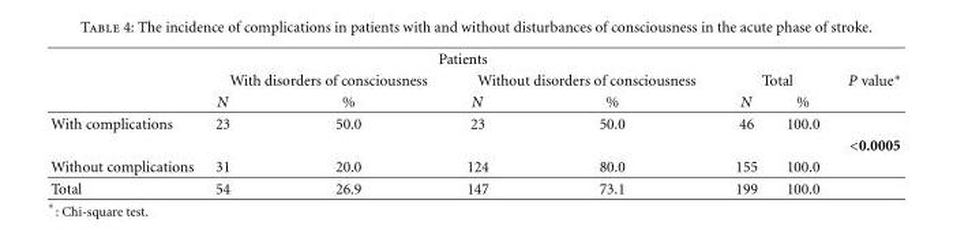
<table><thead><tr><td rowspan="3"></td><td colspan="4">Patients</td><td></td><td></td><td rowspan="3">P value∗</td></tr><tr><td colspan="2">With disorders of consciousness</td><td colspan="2">Without disorders of consciousness</td><td colspan="2">Total</td></tr><tr><td>N</td><td>%</td><td>N</td><td>%</td><td>N</td><td>%</td></tr></thead><tbody><tr><td>With complications</td><td>23</td><td>50.0</td><td>23</td><td>50.0</td><td>46</td><td>100.0</td><td rowspan="2">&lt;0.0005</td></tr><tr><td>Without complications</td><td>31</td><td>20.0</td><td>124</td><td>80.0</td><td>155</td><td>100.0</td></tr><tr><td>Total</td><td>54</td><td>26.9</td><td>147</td><td>73.1</td><td>199</td><td>100.0</td><td></td></tr></tbody></table>